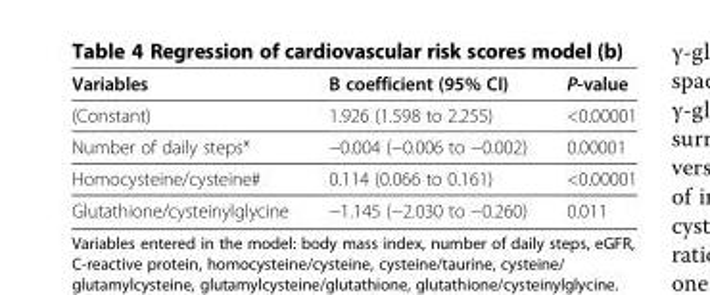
<table><thead><tr><td>Variables</td><td>B coefficient (95% CI)</td><td>P-value</td></tr></thead><tbody><tr><td>(Constant)</td><td>1.926 (1.598 to 2.255)</td><td>&lt;0.00001</td></tr><tr><td>Number of daily steps*</td><td>−0.004 (−0.006 to −0.002)</td><td>0.00001</td></tr><tr><td>Homocysteine/cysteine#</td><td>0.114 (0.066 to 0.161)</td><td>&lt;0.00001</td></tr><tr><td>Glutathione/cysteinylglycine</td><td>−1.145 (−2.030 to −0.260)</td><td>0.011</td></tr></tbody></table>